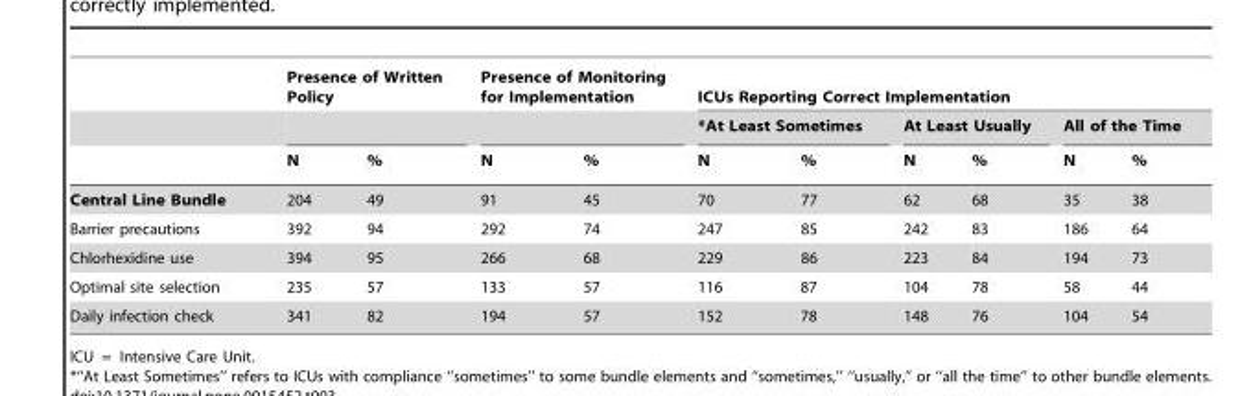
<table><thead><tr><td rowspan="3"></td><td colspan="2">Presence of Written Policy</td><td colspan="2">Presence of Monitoring for Implementation</td><td colspan="6">ICUs Reporting Correct Implementation</td></tr><tr><td rowspan="2">N</td><td rowspan="2">%</td><td rowspan="2">N</td><td rowspan="2">%</td><td colspan="2">*At Least Sometimes</td><td colspan="2">At Least Usually</td><td colspan="2">All of the Time</td></tr><tr><td>N</td><td>%</td><td>N</td><td>%</td><td>N</td><td>%</td></tr></thead><tbody><tr><td>Central Line Bundle</td><td>204</td><td>49</td><td>91</td><td>45</td><td>70</td><td>77</td><td>62</td><td>68</td><td>35</td><td>38</td></tr><tr><td>Barrier precautions</td><td>392</td><td>94</td><td>292</td><td>74</td><td>247</td><td>85</td><td>242</td><td>83</td><td>186</td><td>64</td></tr><tr><td>Chlorhexidine use</td><td>394</td><td>95</td><td>266</td><td>68</td><td>229</td><td>86</td><td>223</td><td>84</td><td>194</td><td>73</td></tr><tr><td>Optimal site selection</td><td>235</td><td>57</td><td>133</td><td>57</td><td>116</td><td>87</td><td>104</td><td>78</td><td>58</td><td>44</td></tr><tr><td>Daily infection check</td><td>341</td><td>82</td><td>194</td><td>57</td><td>152</td><td>78</td><td>148</td><td>76</td><td>104</td><td>54</td></tr></tbody></table>